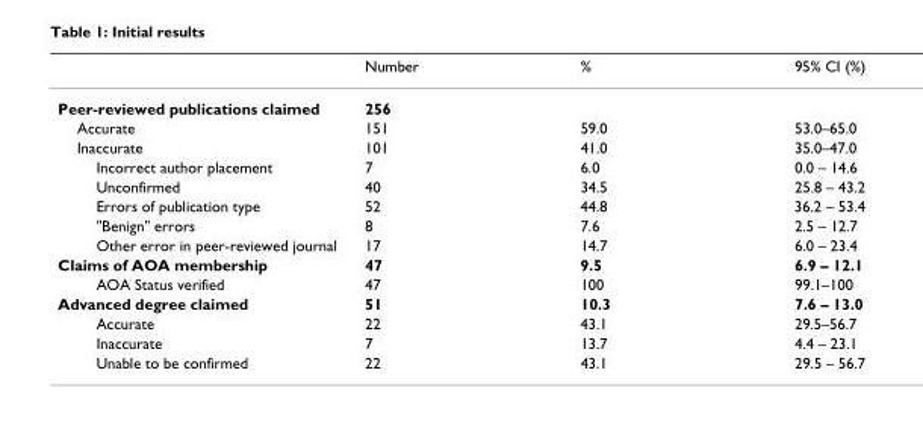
<table><thead><tr><td></td><td>Number</td><td>%</td><td>95% CI (%)</td></tr></thead><tbody><tr><td>Peer-reviewed publications claimed</td><td>256</td><td></td><td></td></tr><tr><td>Accurate</td><td>151</td><td>59.0</td><td>53.0–65.0</td></tr><tr><td>Inaccurate</td><td>101</td><td>41.0</td><td>35.0–47.0</td></tr><tr><td>Incorrect author placement</td><td>7</td><td>6.0</td><td>0.0 – 14.6</td></tr><tr><td>Unconfirmed</td><td>40</td><td>34.5</td><td>25.8 – 43.2</td></tr><tr><td>Errors of publication type</td><td>52</td><td>44.8</td><td>36.2 – 53.4</td></tr><tr><td>&quot;Benign&quot; errors</td><td>8</td><td>7.6</td><td>2.5 – 12.7</td></tr><tr><td>Other error in peer-reviewed journal</td><td>17</td><td>14.7</td><td>6.0 – 23.4</td></tr><tr><td>Claims of AOA membership</td><td>47</td><td>9.5</td><td>6.9 – 12.1</td></tr><tr><td>AOA Status verified</td><td>47</td><td>100</td><td>99.1–100</td></tr><tr><td>Advanced degree claimed</td><td>51</td><td>10.3</td><td>7.6 – 13.0</td></tr><tr><td>Accurate</td><td>22</td><td>43.1</td><td>29.5–56.7</td></tr><tr><td>Inaccurate</td><td>7</td><td>13.7</td><td>4.4 – 23.1</td></tr><tr><td>Unable to be confirmed</td><td>22</td><td>43.1</td><td>29.5 – 56.7</td></tr></tbody></table>